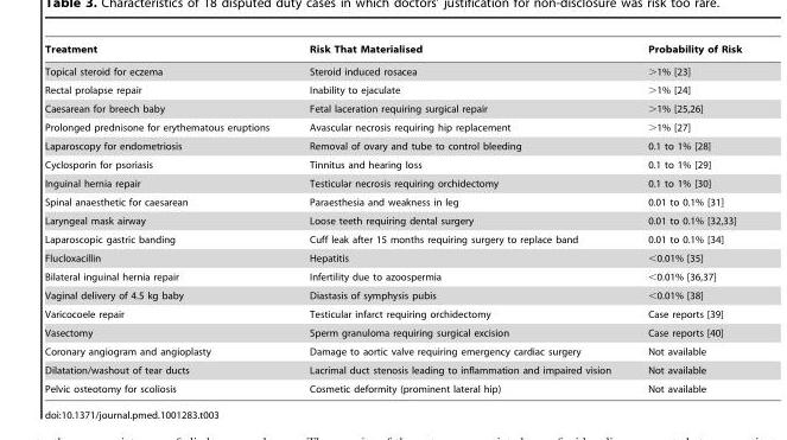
<table><thead><tr><td>Treatment</td><td>Risk That Materialised</td><td>Probability of Risk</td></tr></thead><tbody><tr><td>Topical steroid for eczema</td><td>Steroid induced rosacea</td><td>&gt;1% [23]</td></tr><tr><td>Rectal prolapse repair</td><td>Inability to ejaculate</td><td>&gt;1% [24]</td></tr><tr><td>Caesarean for breech baby</td><td>Fetal laceration requiring surgical repair</td><td>.1% [25,26]</td></tr><tr><td>Prolonged prednisone for erythematous eruptions</td><td>Avascular necrosis requiring hip replacement</td><td>&gt;1% [27]</td></tr><tr><td>Laparoscopy for endometriosis</td><td>Removal of ovary and tube to control bleeding</td><td>0.1 to 1% [28]</td></tr><tr><td>Cyclosporin for psoriasis</td><td>Tinnitus and hearing loss</td><td>0.1 to 1% [29]</td></tr><tr><td>Inguinal hernia repair</td><td>Testicular necrosis requiring orchidectomy</td><td>0.1 to 1% [30]</td></tr><tr><td>Spinal anaesthetic for caesarean</td><td>Paraesthesia and weakness in leg</td><td>0.01 to 0.1% [31]</td></tr><tr><td>Laryngeal mask airway</td><td>Loose teeth requiring dental surgery</td><td>0.01 to 0.1% [32,33]</td></tr><tr><td>Laparoscopic gastric banding</td><td>Cuff leak after 15 months requiring surgery to replace band</td><td>0.01 to 0.1% [34]</td></tr><tr><td>Flucloxacillin</td><td>Hepatitis</td><td>&lt;0.01% [35]</td></tr><tr><td>Bilateral inguinal hernia repair</td><td>Infertility due to azoospermia</td><td>,0.01% [36,37]</td></tr><tr><td>Vaginal delivery of 4.5 kg baby</td><td>Diastasis of symphysis pubis</td><td>&lt;0.01% [38]</td></tr><tr><td>Varicocoele repair</td><td>Testicular infarct requiring orchidectomy</td><td>Case reports [39]</td></tr><tr><td>Vasectomy</td><td>Sperm granuloma requiring surgical excision</td><td>Case reports [40]</td></tr><tr><td>Coronary angiogram and angioplasty</td><td>Damage to aortic valve requiring emergency cardiac surgery</td><td>Not available</td></tr><tr><td>Dilatation/washout of tear ducts</td><td>Lacrimal duct stenosis leading to inflammation and impaired vision</td><td>Not available</td></tr><tr><td>Pelvic osteotomy for scoliosis</td><td>Cosmetic deformity (prominent lateral hip)</td><td>Not available</td></tr></tbody></table>